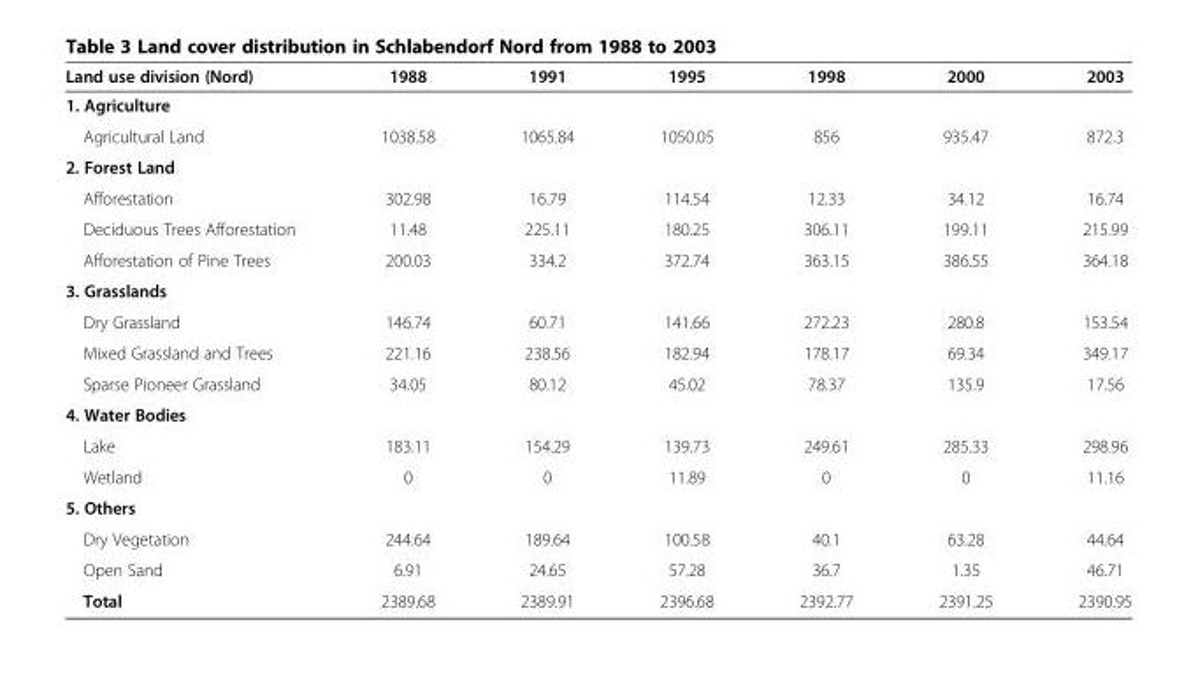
<table><thead><tr><td>Land use division (Nord)</td><td>1988</td><td>1991</td><td>1995</td><td>1998</td><td>2000</td><td>2003</td></tr></thead><tbody><tr><td colspan="7">1. Agriculture</td></tr><tr><td>Agricultural Land</td><td>1038.58</td><td>1065.84</td><td>1050.05</td><td>856</td><td>935.47</td><td>872.3</td></tr><tr><td colspan="7">2. Forest Land</td></tr><tr><td>Afforestation</td><td>302.98</td><td>16.79</td><td>114.54</td><td>12.33</td><td>34.12</td><td>16.74</td></tr><tr><td>Deciduous Trees Afforestation</td><td>11.48</td><td>225.11</td><td>180.25</td><td>306.11</td><td>199.11</td><td>215.99</td></tr><tr><td>Afforestation of Pine Trees</td><td>200.03</td><td>334.2</td><td>372.74</td><td>363.15</td><td>386.55</td><td>364.18</td></tr><tr><td colspan="7">3. Grasslands</td></tr><tr><td>Dry Grassland</td><td>146.74</td><td>60.71</td><td>141.66</td><td>272.23</td><td>280.8</td><td>153.54</td></tr><tr><td>Mixed Grassland and Trees</td><td>221.16</td><td>238.56</td><td>182.94</td><td>178.17</td><td>69.34</td><td>349.17</td></tr><tr><td>Sparse Pioneer Grassland</td><td>34.05</td><td>80.12</td><td>45.02</td><td>78.37</td><td>135.9</td><td>17.56</td></tr><tr><td colspan="7">4. Water Bodies</td></tr><tr><td>Lake</td><td>183.11</td><td>154.29</td><td>139.73</td><td>249.61</td><td>285.33</td><td>298.96</td></tr><tr><td>Wetland</td><td>0</td><td>0</td><td>11.89</td><td>0</td><td>0</td><td>11.16</td></tr><tr><td colspan="7">5. Others</td></tr><tr><td>Dry Vegetation</td><td>244.64</td><td>189.64</td><td>100.58</td><td>40.1</td><td>63.28</td><td>44.64</td></tr><tr><td>Open Sand</td><td>6.91</td><td>24.65</td><td>57.28</td><td>36.7</td><td>1.35</td><td>46.71</td></tr><tr><td>Total</td><td>2389.68</td><td>2389.91</td><td>2396.68</td><td>2392.77</td><td>2391.25</td><td>2390.95</td></tr></tbody></table>